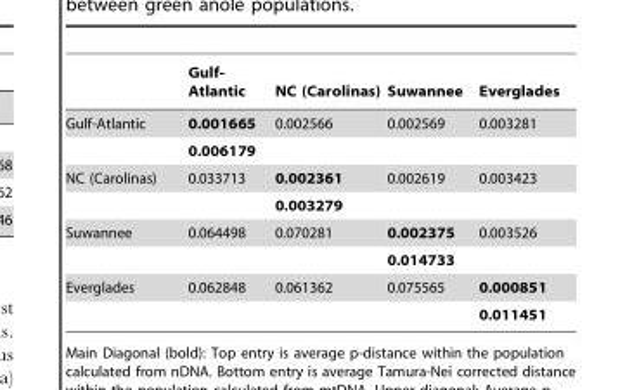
<table><thead><tr><td></td><td>Gulf- Atlantic</td><td>NC (Carolinas)</td><td>Suwannee</td><td>Everglades</td></tr></thead><tbody><tr><td rowspan="2">Gulf-Atlantic</td><td>0.001665</td><td>0.002566</td><td>0.002569</td><td>0.003281</td></tr><tr><td>0.006179</td><td></td><td></td><td></td></tr><tr><td rowspan="2">NC (Carolinas)</td><td>0.033713</td><td>0.002361</td><td>0.002619</td><td>0.003423</td></tr><tr><td></td><td>0.003279</td><td></td><td></td></tr><tr><td rowspan="2">Suwannee</td><td>0.064498</td><td>0.070281</td><td>0.002375</td><td>0.003526</td></tr><tr><td></td><td></td><td>0.014733</td><td></td></tr><tr><td rowspan="2">Everglades</td><td>0.062848</td><td>0.061362</td><td>0.075565</td><td>0.000851</td></tr><tr><td></td><td></td><td></td><td>0.011451</td></tr></tbody></table>